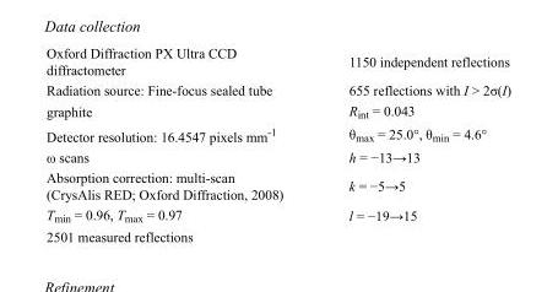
<table><tbody><tr><td>Oxford Diffraction PX Ultra CCD diffractometer</td><td>1150 independent reflections</td></tr><tr><td>Radiation source: Fine-focus sealed tube</td><td>655 reflections with I &gt; 2σ(I)</td></tr><tr><td>graphite</td><td>R<sub>int</sub> = 0.043</td></tr><tr><td>Detector resolution: 16.4547 pixels mm<sup>-1</sup></td><td>θ<sub>max</sub> = 25.0°, θ<sub>min</sub> = 4.6°</td></tr><tr><td>ω scans</td><td>h = −13→13</td></tr><tr><td>Absorption correction: multi-scan (CrysAlis RED; Oxford Diffraction, 2008)</td><td>k = −5→5</td></tr><tr><td>T<sub>min</sub> = 0.96, T<sub>max</sub> = 0.97</td><td>l = −19→15</td></tr><tr><td>2501 measured reflections</td><td></td></tr></tbody></table>